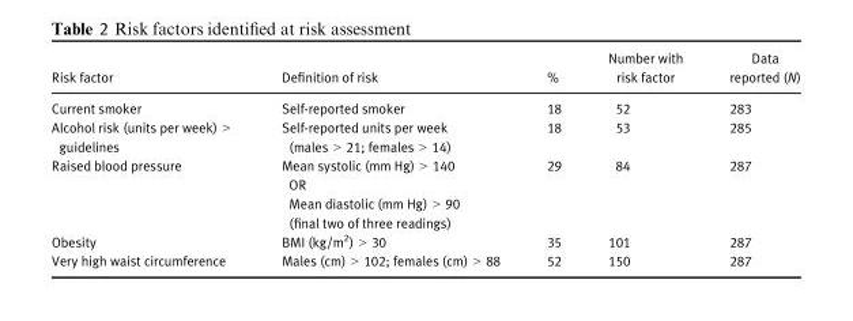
<table><thead><tr><td>Risk factor</td><td>Definition of risk</td><td>%</td><td>Number with risk factor</td><td>Data reported (N)</td></tr></thead><tbody><tr><td>Current smoker</td><td>Self-reported smoker</td><td>18</td><td>52</td><td>283</td></tr><tr><td>Alcohol risk (units per week) &gt; guidelines</td><td>Self-reported units per week (males &gt; 21; females &gt; 14)</td><td>18</td><td>53</td><td>285</td></tr><tr><td>Raised blood pressure</td><td>Mean systolic (mm Hg) &gt; 140 OR Mean diastolic (mm Hg) &gt; 90 (final two of three readings)</td><td>29</td><td>84</td><td>287</td></tr><tr><td>Obesity</td><td>BMI (kg/m<sup>2</sup>) &gt; 30</td><td>35</td><td>101</td><td>287</td></tr><tr><td>Very high waist circumference</td><td>Males (cm) &gt; 102; females (cm) &gt; 88</td><td>52</td><td>150</td><td>287</td></tr></tbody></table>